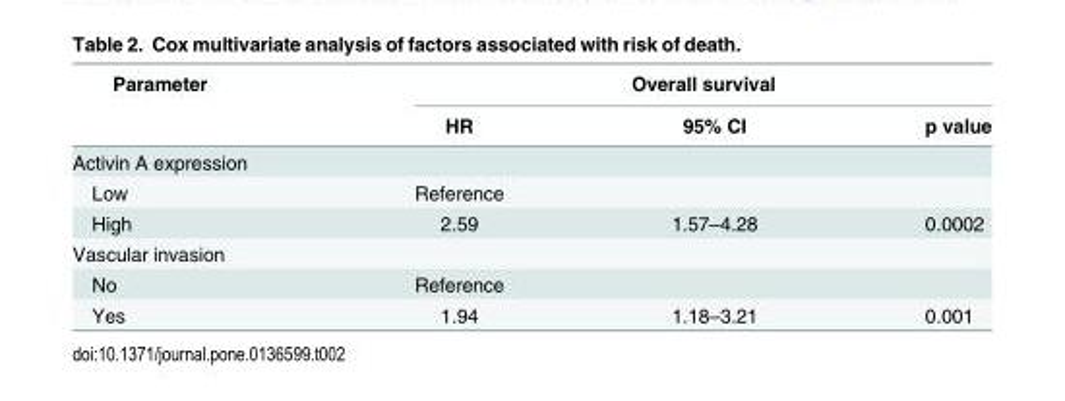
<table><thead><tr><td rowspan="2">Parameter</td><td colspan="3">Overall survival</td></tr><tr><td>HR</td><td>95% CI</td><td>p value</td></tr></thead><tbody><tr><td colspan="4">Activin A expression</td></tr><tr><td>Low</td><td>Reference</td><td></td><td></td></tr><tr><td>High</td><td>2.59</td><td>1.57–4.28</td><td>0.0002</td></tr><tr><td colspan="4">Vascular invasion</td></tr><tr><td>No</td><td>Reference</td><td></td><td></td></tr><tr><td>Yes</td><td>1.94</td><td>1.18–3.21</td><td>0.001</td></tr></tbody></table>